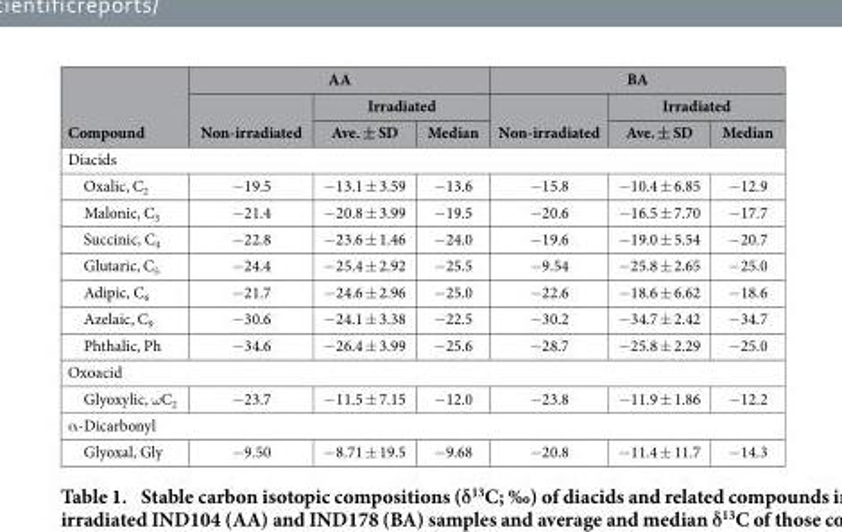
<table><thead><tr><td rowspan="3">Compound</td><td colspan="3">AA</td><td colspan="3">BA</td></tr><tr><td rowspan="2">Non-irradiated</td><td colspan="2">Irradiated</td><td rowspan="2">Non-irradiated</td><td colspan="2">Irradiated</td></tr><tr><td>Ave. ± SD</td><td>Median</td><td>Ave. ± SD</td><td>Median</td></tr></thead><tbody><tr><td colspan="7">Diacids</td></tr><tr><td>Oxalic, C<sub>2</sub></td><td>− 19.5</td><td>− 13.1 ± 3.59</td><td>− 13.6</td><td>− 15.8</td><td>− 10.4 ± 6.85</td><td>− 12.9</td></tr><tr><td>Malonic, C<sub>3</sub></td><td>− 21.4</td><td>− 20.8 ± 3.99</td><td>− 19.5</td><td>− 20.6</td><td>− 16.5 ± 7.70</td><td>− 17.7</td></tr><tr><td>Succinic, C<sub>4</sub></td><td>− 22.8</td><td>− 23.6 ± 1.46</td><td>− 24.0</td><td>− 19.6</td><td>− 19.0 ± 5.54</td><td>− 20.7</td></tr><tr><td>Glutaric, C<sub>5</sub></td><td>− 24.4</td><td>− 25.4 ± 2.92</td><td>− 25.5</td><td>− 9.54</td><td>− 25.8 ± 2.65</td><td>− 25.0</td></tr><tr><td>Adipic, C<sub>6</sub></td><td>− 21.7</td><td>− 24.6 ± 2.96</td><td>− 25.0</td><td>− 22.6</td><td>− 18.6 ± 6.62</td><td>− 18.6</td></tr><tr><td>Azelaic, C<sub>9</sub></td><td>− 30.6</td><td>− 24.1 ± 3.38</td><td>− 22.5</td><td>− 30.2</td><td>− 34.7 ± 2.42</td><td>− 34.7</td></tr><tr><td>Phthalic, Ph</td><td>− 34.6</td><td>− 26.4 ± 3.99</td><td>− 25.6</td><td>− 28.7</td><td>− 25.8 ± 2.29</td><td>− 25.0</td></tr><tr><td colspan="7">Oxoacid</td></tr><tr><td>Glyoxylic, ω C<sub>2</sub></td><td>− 23.7</td><td>− 11.5 ± 7.15</td><td>− 12.0</td><td>− 23.8</td><td>− 11.9 ± 1.86</td><td>− 12.2</td></tr><tr><td colspan="7">α -Dicarbonyl</td></tr><tr><td>Glyoxal, Gly</td><td>− 9.50</td><td>− 8.71 ± 19.5</td><td>− 9.68</td><td>− 20.8</td><td>− 11.4 ± 11.7</td><td>− 14.3</td></tr></tbody></table>